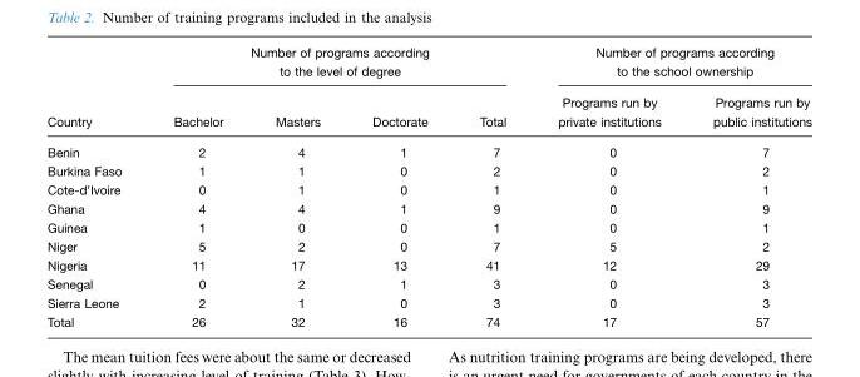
<table><thead><tr><td rowspan="2">Country</td><td colspan="4">Number of programs according to the level of degree</td><td colspan="2">Number of programs according to the school ownership</td></tr><tr><td>Bachelor</td><td>Masters</td><td>Doctorate</td><td>Total</td><td>Programs run by private institutions</td><td>Programs run by public institutions</td></tr></thead><tbody><tr><td>Benin</td><td>2</td><td>4</td><td>1</td><td>7</td><td>0</td><td>7</td></tr><tr><td>Burkina Faso</td><td>1</td><td>1</td><td>0</td><td>2</td><td>0</td><td>2</td></tr><tr><td>Cote-d’Ivoire</td><td>0</td><td>1</td><td>0</td><td>1</td><td>0</td><td>1</td></tr><tr><td>Ghana</td><td>4</td><td>4</td><td>1</td><td>9</td><td>0</td><td>9</td></tr><tr><td>Guinea</td><td>1</td><td>0</td><td>0</td><td>1</td><td>0</td><td>1</td></tr><tr><td>Niger</td><td>5</td><td>2</td><td>0</td><td>7</td><td>5</td><td>2</td></tr><tr><td>Nigeria</td><td>11</td><td>17</td><td>13</td><td>41</td><td>12</td><td>29</td></tr><tr><td>Senegal</td><td>0</td><td>2</td><td>1</td><td>3</td><td>0</td><td>3</td></tr><tr><td>Sierra Leone</td><td>2</td><td>1</td><td>0</td><td>3</td><td>0</td><td>3</td></tr><tr><td>Total</td><td>26</td><td>32</td><td>16</td><td>74</td><td>17</td><td>57</td></tr></tbody></table>